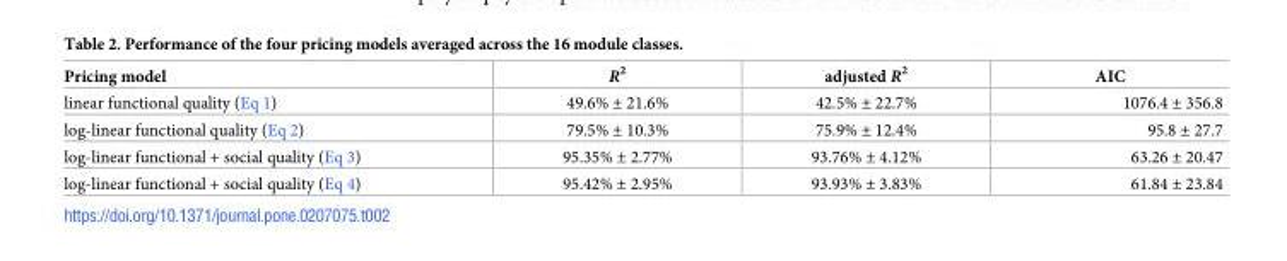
<table><thead><tr><td>Pricing model</td><td>R<sup>2</sup></td><td>adjusted R<sup>2</sup></td><td>AIC</td></tr></thead><tbody><tr><td>linear functional quality (Eq 1)</td><td>49.6% ± 21.6%</td><td>42.5% ± 22.7%</td><td>1076.4 ± 356.8</td></tr><tr><td>log-linear functional quality (Eq 2)</td><td>79.5% ± 10.3%</td><td>75.9% ± 12.4%</td><td>95.8 ± 27.7</td></tr><tr><td>log-linear functional + social quality (Eq 3)</td><td>95.35% ± 2.77%</td><td>93.76% ± 4.12%</td><td>63.26 ± 20.47</td></tr><tr><td>log-linear functional + social quality (Eq 4)</td><td>95.42% ± 2.95%</td><td>93.93% ± 3.83%</td><td>61.84 ± 23.84</td></tr></tbody></table>